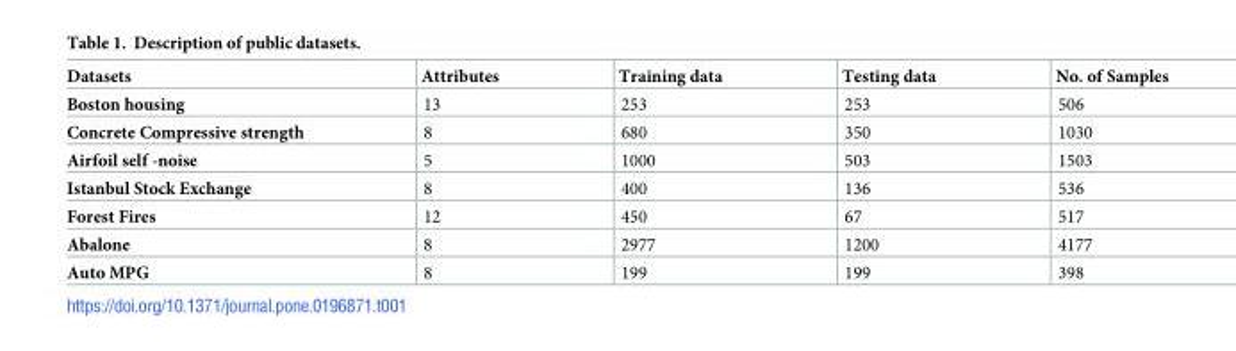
<table><thead><tr><td>Datasets</td><td>Attributes</td><td>Training data</td><td>Testing data</td><td>No. of Samples</td></tr></thead><tbody><tr><td>Boston housing</td><td>13</td><td>253</td><td>253</td><td>506</td></tr><tr><td>Concrete Compressive strength</td><td>8</td><td>680</td><td>350</td><td>1030</td></tr><tr><td>Airfoil self -noise</td><td>5</td><td>1000</td><td>503</td><td>1503</td></tr><tr><td>Istanbul Stock Exchange</td><td>8</td><td>400</td><td>136</td><td>536</td></tr><tr><td>Forest Fires</td><td>12</td><td>450</td><td>67</td><td>517</td></tr><tr><td>Abalone</td><td>8</td><td>2977</td><td>1200</td><td>4177</td></tr><tr><td>Auto MPG</td><td>8</td><td>199</td><td>199</td><td>398</td></tr></tbody></table>